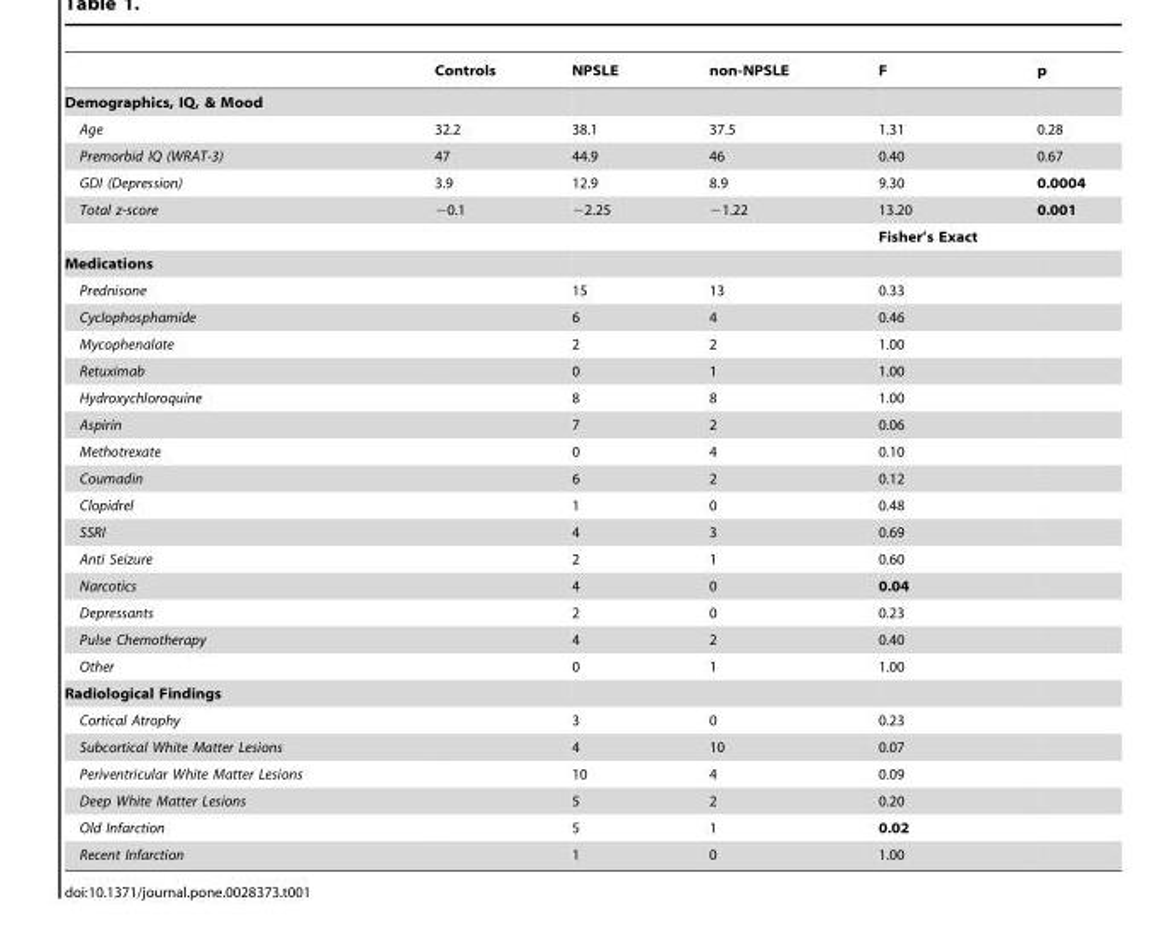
<table><thead><tr><td></td><td>Controls</td><td>NPSLE</td><td>non-NPSLE</td><td>F</td><td>p</td></tr></thead><tbody><tr><td colspan="6">Demographics, IQ, &amp; Mood</td></tr><tr><td>Age</td><td>32.2</td><td>38.1</td><td>37.5</td><td>1.31</td><td>0.28</td></tr><tr><td>Premorbid IQ (WRAT-3)</td><td>47</td><td>44.9</td><td>46</td><td>0.40</td><td>0.67</td></tr><tr><td>GDI (Depression)</td><td>3.9</td><td>12.9</td><td>8.9</td><td>9.30</td><td>0.0004</td></tr><tr><td rowspan="2">Total z-score</td><td>−0.1</td><td>−2.25</td><td>−1.22</td><td>13.20</td><td>0.001</td></tr><tr><td></td><td></td><td></td><td>Fisher’s Exact</td><td></td></tr><tr><td colspan="6">Medications</td></tr><tr><td>Prednisone</td><td></td><td>15</td><td>13</td><td>0.33</td><td></td></tr><tr><td>Cyclophosphamide</td><td></td><td>6</td><td>4</td><td>0.46</td><td></td></tr><tr><td>Mycophenalate</td><td></td><td>2</td><td>2</td><td>1.00</td><td></td></tr><tr><td>Retuximab</td><td></td><td>0</td><td>1</td><td>1.00</td><td></td></tr><tr><td>Hydroxychloroquine</td><td></td><td>8</td><td>8</td><td>1.00</td><td></td></tr><tr><td>Aspirin</td><td></td><td>7</td><td>2</td><td>0.06</td><td></td></tr><tr><td>Methotrexate</td><td></td><td>0</td><td>4</td><td>0.10</td><td></td></tr><tr><td>Coumadin</td><td></td><td>6</td><td>2</td><td>0.12</td><td></td></tr><tr><td>Clopidrel</td><td></td><td>1</td><td>0</td><td>0.48</td><td></td></tr><tr><td>SSRI</td><td></td><td>4</td><td>3</td><td>0.69</td><td></td></tr><tr><td>Anti Seizure</td><td></td><td>2</td><td>1</td><td>0.60</td><td></td></tr><tr><td>Narcotics</td><td></td><td>4</td><td>0</td><td>0.04</td><td></td></tr><tr><td>Depressants</td><td></td><td>2</td><td>0</td><td>0.23</td><td></td></tr><tr><td>Pulse Chemotherapy</td><td></td><td>4</td><td>2</td><td>0.40</td><td></td></tr><tr><td>Other</td><td></td><td>0</td><td>1</td><td>1.00</td><td></td></tr><tr><td colspan="6">Radiological Findings</td></tr><tr><td>Cortical Atrophy</td><td></td><td>3</td><td>0</td><td>0.23</td><td></td></tr><tr><td>Subcortical White Matter Lesions</td><td></td><td>4</td><td>10</td><td>0.07</td><td></td></tr><tr><td>Periventricular White Matter Lesions</td><td></td><td>10</td><td>4</td><td>0.09</td><td></td></tr><tr><td>Deep White Matter Lesions</td><td></td><td>5</td><td>2</td><td>0.20</td><td></td></tr><tr><td>Old Infarction</td><td></td><td>5</td><td>1</td><td>0.02</td><td></td></tr><tr><td>Recent Infarction</td><td></td><td>1</td><td>0</td><td>1.00</td><td></td></tr></tbody></table>